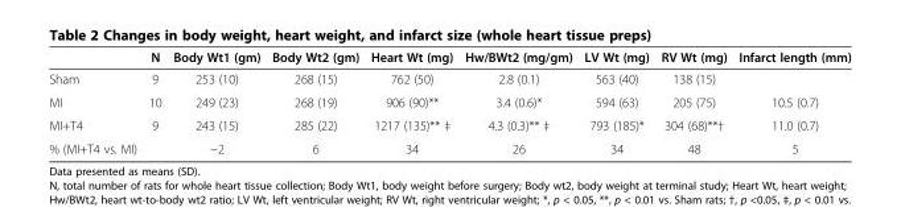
<table><thead><tr><td></td><td>N</td><td>Body Wt1 (gm)</td><td>Body Wt2 (gm)</td><td>Heart Wt (mg)</td><td>Hw/BWt2 (mg/gm)</td><td>LV Wt (mg)</td><td>RV Wt (mg)</td><td>Infarct length (mm)</td></tr></thead><tbody><tr><td>Sham</td><td>9</td><td>253 (10)</td><td>268 (15)</td><td>762 (50)</td><td>2.8 (0.1)</td><td>563 (40)</td><td>138 (15)</td><td></td></tr><tr><td>MI</td><td>10</td><td>249 (23)</td><td>268 (19)</td><td>906 (90)**</td><td>3.4 (0.6)*</td><td>594 (63)</td><td>205 (75)</td><td>10.5 (0.7)</td></tr><tr><td>MI+T4</td><td>9</td><td>243 (15)</td><td>285 (22)</td><td>1217 (135)** ‡</td><td>4.3 (0.3)** ‡</td><td>793 (185)*</td><td>304 (68)**†</td><td>11.0 (0.7)</td></tr><tr><td>% (MI+T4 vs. MI)</td><td></td><td>−2</td><td>6</td><td>34</td><td>26</td><td>34</td><td>48</td><td>5</td></tr></tbody></table>